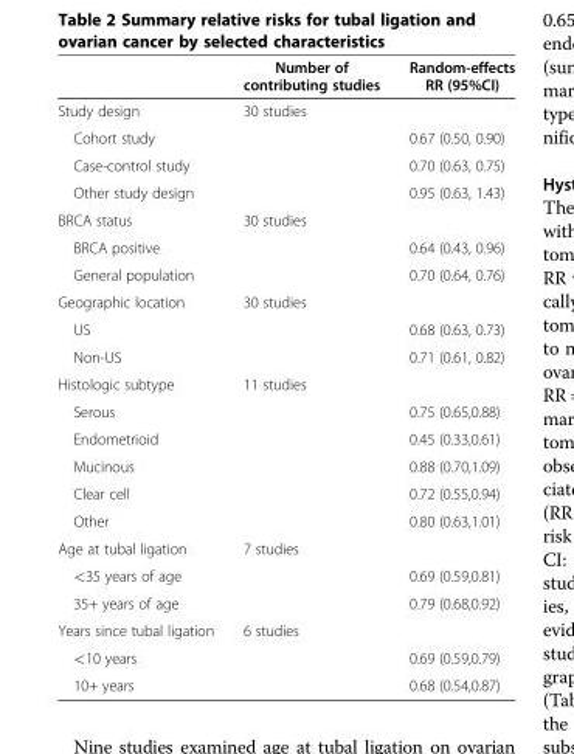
<table><thead><tr><td></td><td>Number of contributing studies</td><td>Random-effects RR (95%CI)</td></tr></thead><tbody><tr><td>Study design</td><td>30 studies</td><td></td></tr><tr><td>Cohort study</td><td></td><td>0.67 (0.50, 0.90)</td></tr><tr><td>Case-control study</td><td></td><td>0.70 (0.63, 0.75)</td></tr><tr><td>Other study design</td><td></td><td>0.95 (0.63, 1.43)</td></tr><tr><td>BRCA status</td><td>30 studies</td><td></td></tr><tr><td>BRCA positive</td><td></td><td>0.64 (0.43, 0.96)</td></tr><tr><td>General population</td><td></td><td>0.70 (0.64, 0.76)</td></tr><tr><td>Geographic location</td><td>30 studies</td><td></td></tr><tr><td>US</td><td></td><td>0.68 (0.63, 0.73)</td></tr><tr><td>Non-US</td><td></td><td>0.71 (0.61, 0.82)</td></tr><tr><td>Histologic subtype</td><td>11 studies</td><td></td></tr><tr><td>Serous</td><td></td><td>0.75 (0.65,0.88)</td></tr><tr><td>Endometrioid</td><td></td><td>0.45 (0.33,0.61)</td></tr><tr><td>Mucinous</td><td></td><td>0.88 (0.70,1.09)</td></tr><tr><td>Clear cell</td><td></td><td>0.72 (0.55,0.94)</td></tr><tr><td>Other</td><td></td><td>0.80 (0.63,1.01)</td></tr><tr><td>Age at tubal ligation</td><td>7 studies</td><td></td></tr><tr><td>&lt;35 years of age</td><td></td><td>0.69 (0.59,0.81)</td></tr><tr><td>35+ years of age</td><td></td><td>0.79 (0.68,0.92)</td></tr><tr><td>Years since tubal ligation</td><td>6 studies</td><td></td></tr><tr><td>&lt;10 years</td><td></td><td>0.69 (0.59,0.79)</td></tr><tr><td>10+ years</td><td></td><td>0.68 (0.54,0.87)</td></tr></tbody></table>